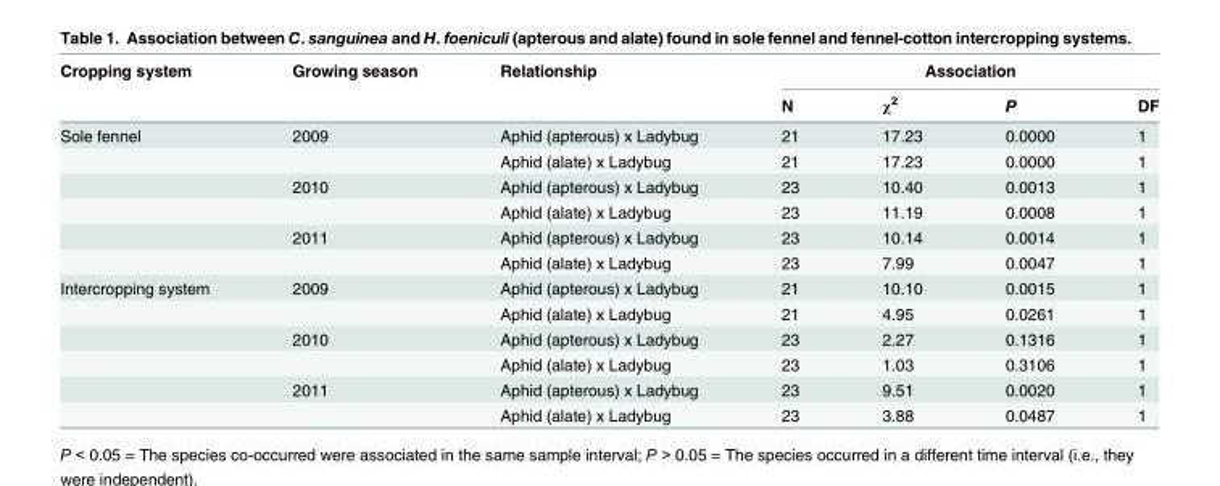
<table><thead><tr><td rowspan="2">Cropping system</td><td rowspan="2">Growing season</td><td rowspan="2">Relationship</td><td colspan="4">Association</td></tr><tr><td>N</td><td>χ<sup>2</sup></td><td>P</td><td>DF</td></tr></thead><tbody><tr><td rowspan="6">Sole fennel</td><td>2009</td><td>Aphid (apterous) x Ladybug</td><td>21</td><td>17.23</td><td>0.0000</td><td>1</td></tr><tr><td></td><td>Aphid (alate) x Ladybug</td><td>21</td><td>17.23</td><td>0.0000</td><td>1</td></tr><tr><td>2010</td><td>Aphid (apterous) x Ladybug</td><td>23</td><td>10.40</td><td>0.0013</td><td>1</td></tr><tr><td></td><td>Aphid (alate) x Ladybug</td><td>23</td><td>11.19</td><td>0.0008</td><td>1</td></tr><tr><td>2011</td><td>Aphid (apterous) x Ladybug</td><td>23</td><td>10.14</td><td>0.0014</td><td>1</td></tr><tr><td></td><td>Aphid (alate) x Ladybug</td><td>23</td><td>7.99</td><td>0.0047</td><td>1</td></tr><tr><td rowspan="6">Intercropping system</td><td>2009</td><td>Aphid (apterous) x Ladybug</td><td>21</td><td>10.10</td><td>0.0015</td><td>1</td></tr><tr><td></td><td>Aphid (alate) x Ladybug</td><td>21</td><td>4.95</td><td>0.0261</td><td>1</td></tr><tr><td>2010</td><td>Aphid (apterous) x Ladybug</td><td>23</td><td>2.27</td><td>0.1316</td><td>1</td></tr><tr><td></td><td>Aphid (alate) x Ladybug</td><td>23</td><td>1.03</td><td>0.3106</td><td>1</td></tr><tr><td>2011</td><td>Aphid (apterous) x Ladybug</td><td>23</td><td>9.51</td><td>0.0020</td><td>1</td></tr><tr><td></td><td>Aphid (alate) x Ladybug</td><td>23</td><td>3.88</td><td>0.0487</td><td>1</td></tr></tbody></table>